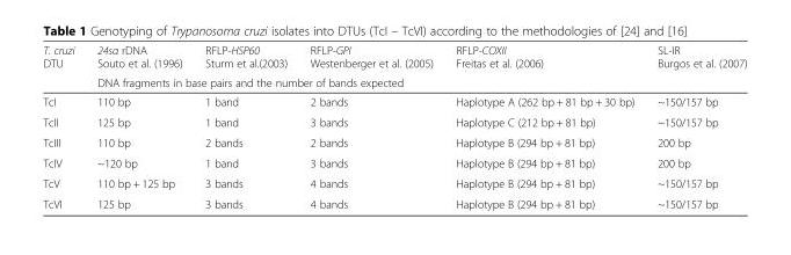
<table><thead><tr><td rowspan="2">T. cruzi DTU</td><td>24sα rDNA Souto et al. (1996)</td><td>RFLP-HSP60 Sturm et al.(2003)</td><td>RFLP-GPI Westenberger et al. (2005)</td><td>RFLP-COXII Freitas et al. (2006)</td><td>SL-IR Burgos et al. (2007)</td></tr><tr><td colspan="5">DNA fragments in base pairs and the number of bands expected</td></tr></thead><tbody><tr><td>TcI</td><td>110 bp</td><td>1 band</td><td>2 bands</td><td>Haplotype A (262 bp + 81 bp + 30 bp)</td><td>~150/157 bp</td></tr><tr><td>TcII</td><td>125 bp</td><td>1 band</td><td>3 bands</td><td>Haplotype C (212 bp + 81 bp)</td><td>~150/157 bp</td></tr><tr><td>TcIII</td><td>110 bp</td><td>2 bands</td><td>2 bands</td><td>Haplotype B (294 bp + 81 bp)</td><td>200 bp</td></tr><tr><td>TcIV</td><td>~120 bp</td><td>1 band</td><td>3 bands</td><td>Haplotype B (294 bp + 81 bp)</td><td>200 bp</td></tr><tr><td>TcV</td><td>110 bp + 125 bp</td><td>3 bands</td><td>4 bands</td><td>Haplotype B (294 bp + 81 bp)</td><td>~150/157 bp</td></tr><tr><td>TcVI</td><td>125 bp</td><td>3 bands</td><td>4 bands</td><td>Haplotype B (294 bp + 81 bp)</td><td>~150/157 bp</td></tr></tbody></table>